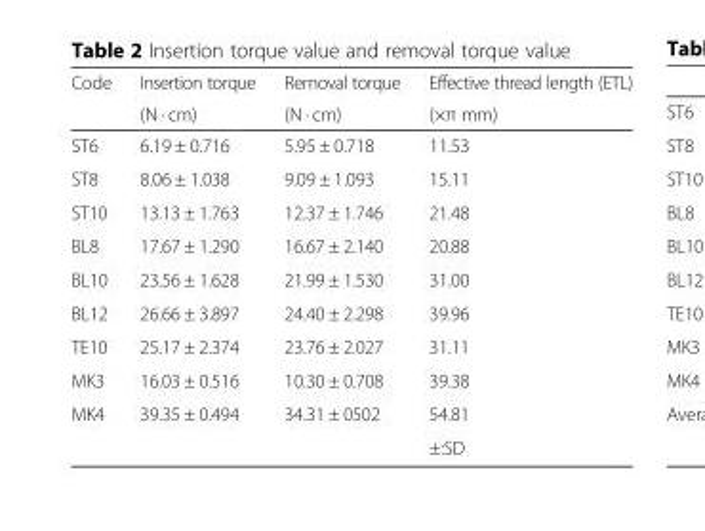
<table><thead><tr><td rowspan="2">Code</td><td rowspan="2">Insertion torque (N · cm)</td><td rowspan="2">Removal torque (N · cm)</td><td rowspan="2">Effective thread length (ETL) (×π mm)</td></tr><tr></tr></thead><tbody><tr><td>ST6</td><td>6.19 ± 0.716</td><td>5.95 ± 0.718</td><td>11.53</td></tr><tr><td>ST8</td><td>8.06 ± 1.038</td><td>9.09 ± 1.093</td><td>15.11</td></tr><tr><td>ST10</td><td>13.13 ± 1.763</td><td>12.37 ± 1.746</td><td>21.48</td></tr><tr><td>BL8</td><td>17.67 ± 1.290</td><td>16.67 ± 2.140</td><td>20.88</td></tr><tr><td>BL10</td><td>23.56 ± 1.628</td><td>21.99 ± 1.530</td><td>31.00</td></tr><tr><td>BL12</td><td>26.66 ± 3.897</td><td>24.40 ± 2.298</td><td>39.96</td></tr><tr><td>TE10</td><td>25.17 ± 2.374</td><td>23.76 ± 2.027</td><td>31.11</td></tr><tr><td>MK3</td><td>16.03 ± 0.516</td><td>10.30 ± 0.708</td><td>39.38</td></tr><tr><td>MK4</td><td>39.35 ± 0.494</td><td>34.31 ± 0502</td><td>54.81</td></tr><tr><td colspan="3"></td><td>±:SD</td></tr></tbody></table>